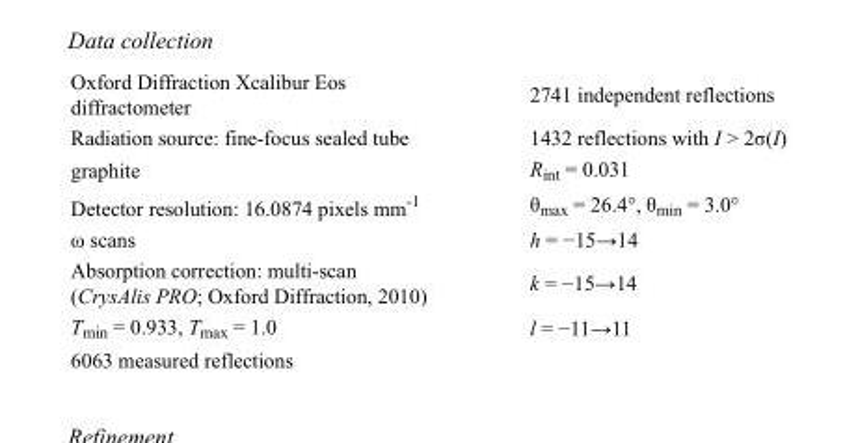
<table><tbody><tr><td>Oxford Diffraction Xcalibur Eos diffractometer</td><td>2741 independent reflections</td></tr><tr><td>Radiation source: fine-focus sealed tube</td><td>1432 reflections with I &gt; 2σ(I)</td></tr><tr><td>graphite</td><td>R<sub>int</sub> = 0.031</td></tr><tr><td>Detector resolution: 16.0874 pixels mm<sup>-1</sup></td><td>θ<sub>max</sub> = 26.4°, θ<sub>min</sub> = 3.0°</td></tr><tr><td>ω scans</td><td>h = −15→14</td></tr><tr><td>Absorption correction: multi-scan (CrysAlis PRO; Oxford Diffraction, 2010)</td><td>k = −15→14</td></tr><tr><td>T<sub>min</sub> = 0.933, T<sub>max</sub> = 1.0</td><td>l = −11→11</td></tr><tr><td>6063 measured reflections</td><td></td></tr></tbody></table>